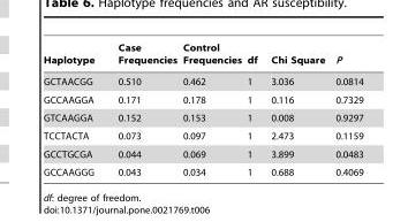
<table><thead><tr><td>Haplotype</td><td>Case Frequencies</td><td>Control Frequencies</td><td>df</td><td>Chi Square</td><td>P</td></tr></thead><tbody><tr><td>GCTAACGG</td><td>0.510</td><td>0.462</td><td>1</td><td>3.036</td><td>0.0814</td></tr><tr><td>GCCAAGGA</td><td>0.171</td><td>0.178</td><td>1</td><td>0.116</td><td>0.7329</td></tr><tr><td>GTCAAGGA</td><td>0.152</td><td>0.153</td><td>1</td><td>0.008</td><td>0.9297</td></tr><tr><td>TCCTACTA</td><td>0.073</td><td>0.097</td><td>1</td><td>2.473</td><td>0.1159</td></tr><tr><td>GCCTGCGA</td><td>0.044</td><td>0.069</td><td>1</td><td>3.899</td><td>0.0483</td></tr><tr><td>GCCAAGGG</td><td>0.043</td><td>0.034</td><td>1</td><td>0.688</td><td>0.4069</td></tr></tbody></table>